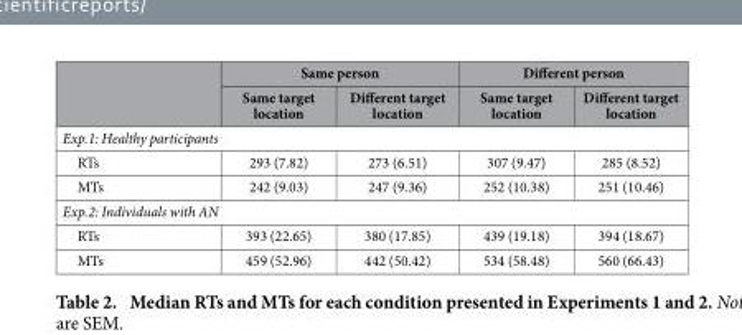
<table><thead><tr><td rowspan="2"></td><td colspan="2">Same person</td><td colspan="2">Different person</td></tr><tr><td>Same target location</td><td>Different target location</td><td>Same target location</td><td>Different target location</td></tr></thead><tbody><tr><td colspan="5">Exp.1: Healthy participants</td></tr><tr><td>RTs</td><td>293 (7.82)</td><td>273 (6.51)</td><td>307 (9.47)</td><td>285 (8.52)</td></tr><tr><td>MTs</td><td>242 (9.03)</td><td>247 (9.36)</td><td>252 (10.38)</td><td>251 (10.46)</td></tr><tr><td colspan="5">Exp.2: Individuals with AN</td></tr><tr><td>RTs</td><td>393 (22.65)</td><td>380 (17.85)</td><td>439 (19.18)</td><td>394 (18.67)</td></tr><tr><td>MTs</td><td>459 (52.96)</td><td>442 (50.42)</td><td>534 (58.48)</td><td>560 (66.43)</td></tr></tbody></table>